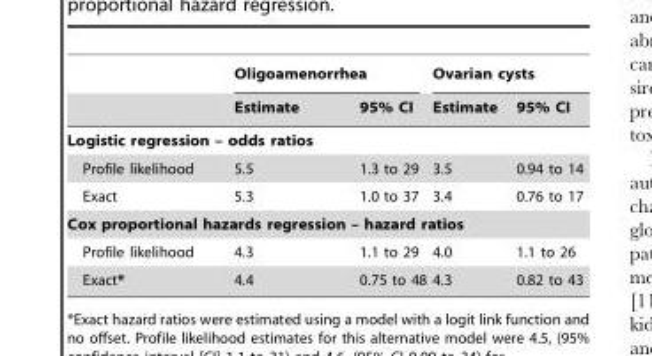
<table><thead><tr><td rowspan="2"></td><td colspan="2">Oligoamenorrhea</td><td colspan="2">Ovarian cysts</td></tr><tr><td>Estimate</td><td>95% CI</td><td>Estimate</td><td>95% CI</td></tr></thead><tbody><tr><td colspan="5">Logistic regression – odds ratios</td></tr><tr><td>Profile likelihood</td><td>5.5</td><td>1.3 to 29</td><td>3.5</td><td>0.94 to 14</td></tr><tr><td>Exact</td><td>5.3</td><td>1.0 to 37</td><td>3.4</td><td>0.76 to 17</td></tr><tr><td colspan="5">Cox proportional hazards regression – hazard ratios</td></tr><tr><td>Profile likelihood</td><td>4.3</td><td>1.1 to 29</td><td>4.0</td><td>1.1 to 26</td></tr><tr><td>Exact*</td><td>4.4</td><td>0.75 to 48</td><td>4.3</td><td>0.82 to 43</td></tr></tbody></table>